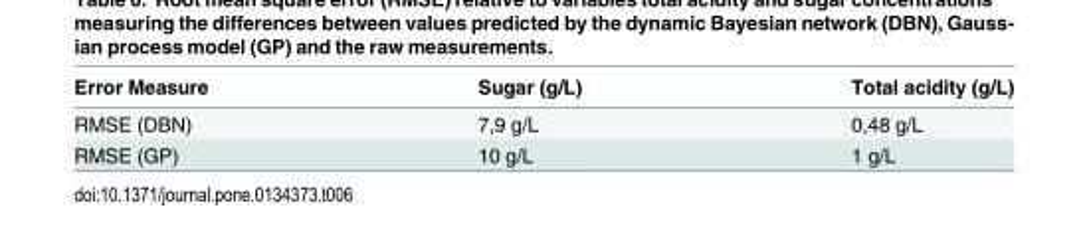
<table><thead><tr><td>Error Measure</td><td>Sugar (g/L)</td><td>Total acidity (g/L)</td></tr></thead><tbody><tr><td>RMSE (DBN)</td><td>7,9 g/L</td><td>0,48 g/L</td></tr><tr><td>RMSE (GP)</td><td>10 g/L</td><td>1 g/L</td></tr></tbody></table>